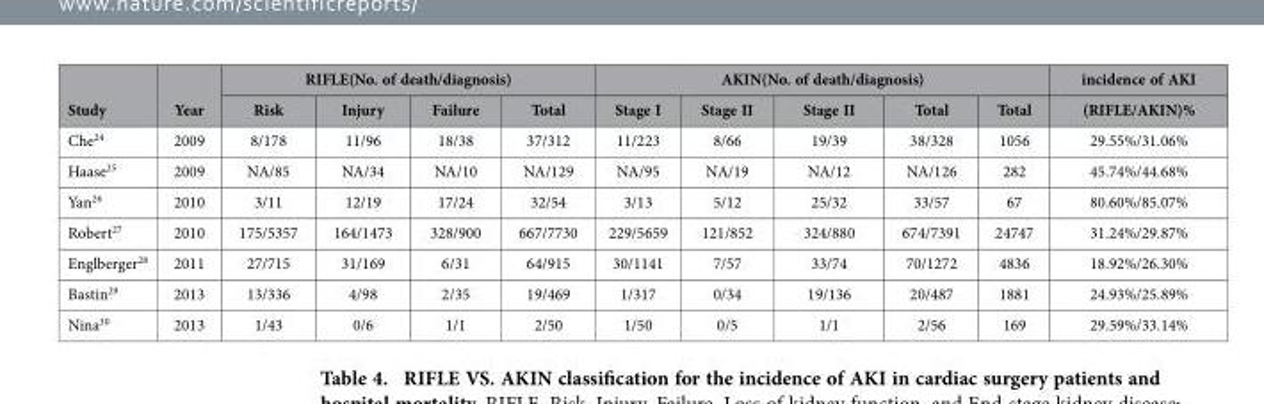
<table><thead><tr><td rowspan="2">Study</td><td rowspan="2">Year</td><td colspan="4">RIFLE(No. of death/diagnosis)</td><td colspan="5">AKIN(No. of death/diagnosis)</td><td rowspan="2">incidence of AKI (RIFLE/AKIN)%</td></tr><tr><td>Risk</td><td>Injury</td><td>Failure</td><td>Total</td><td>Stage I</td><td>Stage II</td><td>Stage II</td><td>Total</td><td>Total</td></tr></thead><tbody><tr><td>Che<sup>24</sup></td><td>2009</td><td>8/178</td><td>11/96</td><td>18/38</td><td>37/312</td><td>11/223</td><td>8/66</td><td>19/39</td><td>38/328</td><td>1056</td><td>29.55%/31.06%</td></tr><tr><td>Haase<sup>25</sup></td><td>2009</td><td>NA/85</td><td>NA/34</td><td>NA/10</td><td>NA/129</td><td>NA/95</td><td>NA/19</td><td>NA/12</td><td>NA/126</td><td>282</td><td>45.74%/44.68%</td></tr><tr><td>Yan<sup>26</sup></td><td>2010</td><td>3/11</td><td>12/19</td><td>17/24</td><td>32/54</td><td>3/13</td><td>5/12</td><td>25/32</td><td>33/57</td><td>67</td><td>80.60%/85.07%</td></tr><tr><td>Robert<sup>27</sup></td><td>2010</td><td>175/5357</td><td>164/1473</td><td>328/900</td><td>667/7730</td><td>229/5659</td><td>121/852</td><td>324/880</td><td>674/7391</td><td>24747</td><td>31.24%/29.87%</td></tr><tr><td>Englberger<sup>28</sup></td><td>2011</td><td>27/715</td><td>31/169</td><td>6/31</td><td>64/915</td><td>30/1141</td><td>7/57</td><td>33/74</td><td>70/1272</td><td>4836</td><td>18.92%/26.30%</td></tr><tr><td>Bastin<sup>29</sup></td><td>2013</td><td>13/336</td><td>4/98</td><td>2/35</td><td>19/469</td><td>1/317</td><td>0/34</td><td>19/136</td><td>20/487</td><td>1881</td><td>24.93%/25.89%</td></tr><tr><td>Nina<sup>30</sup></td><td>2013</td><td>1/43</td><td>0/6</td><td>1/1</td><td>2/50</td><td>1/50</td><td>0/5</td><td>1/1</td><td>2/56</td><td>169</td><td>29.59%/33.14%</td></tr></tbody></table>